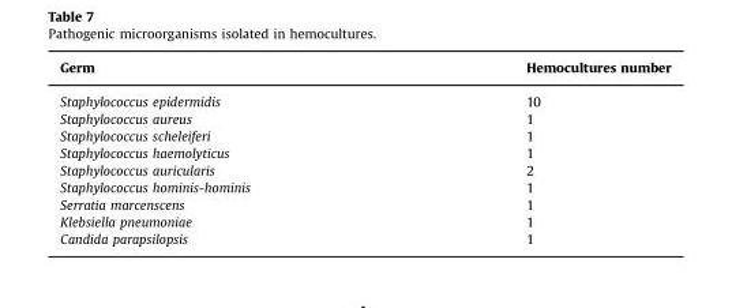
<table><thead><tr><td>Germ</td><td>Hemocultures number</td></tr></thead><tbody><tr><td>Staphylococcus epidermidis</td><td>10</td></tr><tr><td>Staphylococcus aureus</td><td>1</td></tr><tr><td>Staphylococcus scheleiferi</td><td>1</td></tr><tr><td>Staphylococcus haemolyticus</td><td>1</td></tr><tr><td>Staphylococcus auricularis</td><td>2</td></tr><tr><td>Staphylococcus hominis-hominis</td><td>1</td></tr><tr><td>Serratia marcenscens</td><td>1</td></tr><tr><td>Klebsiella pneumoniae</td><td>1</td></tr><tr><td>Candida parapsilopsis</td><td>1</td></tr></tbody></table>